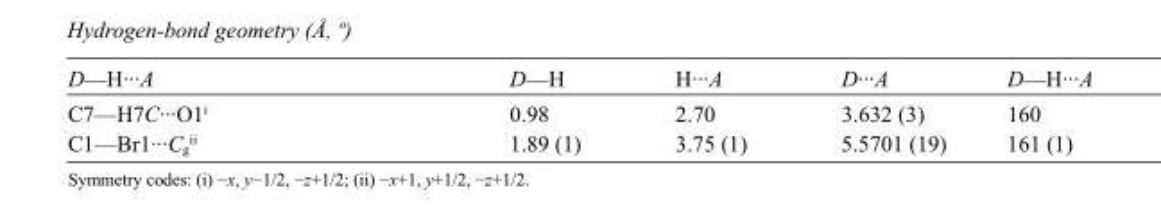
<table><tbody><tr><td>D—H···A</td><td>D—H</td><td>H···A</td><td>D···A</td><td>D—H···A</td></tr><tr><td>C7—H7C···O1<sup>i</sup></td><td>0.98</td><td>2.70</td><td>3.632 (3)</td><td>160</td></tr><tr><td>C1—Br1···C<sub>g</sub><sup>ii</sup></td><td>1.89 (1)</td><td>3.75 (1)</td><td>5.5701 (19)</td><td>161 (1)</td></tr></tbody></table>